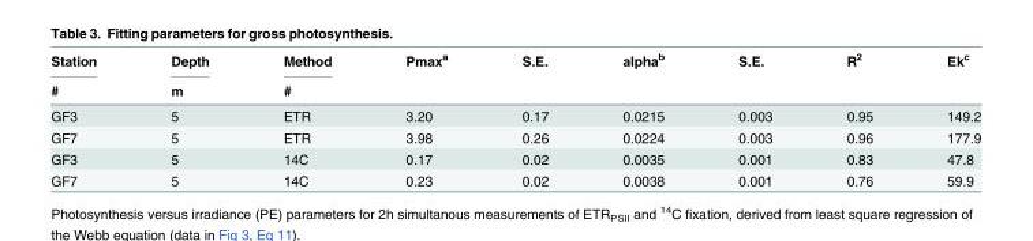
<table><thead><tr><td rowspan="2">Station #</td><td rowspan="2">Depth m</td><td rowspan="2">Method #</td><td rowspan="2">Pmax<sup>a</sup></td><td rowspan="2">S.E.</td><td rowspan="2">alpha<sup>b</sup></td><td rowspan="2">S.E.</td><td rowspan="2">R<sup>2</sup></td><td rowspan="2">Ek<sup>c</sup></td></tr><tr></tr></thead><tbody><tr><td>GF3</td><td>5</td><td>ETR</td><td>3.20</td><td>0.17</td><td>0.0215</td><td>0.003</td><td>0.95</td><td>149.2</td></tr><tr><td>GF7</td><td>5</td><td>ETR</td><td>3.98</td><td>0.26</td><td>0.0224</td><td>0.003</td><td>0.96</td><td>177.9</td></tr><tr><td>GF3</td><td>5</td><td>14C</td><td>0.17</td><td>0.02</td><td>0.0035</td><td>0.001</td><td>0.83</td><td>47.8</td></tr><tr><td>GF7</td><td>5</td><td>14C</td><td>0.23</td><td>0.02</td><td>0.0038</td><td>0.001</td><td>0.76</td><td>59.9</td></tr></tbody></table>